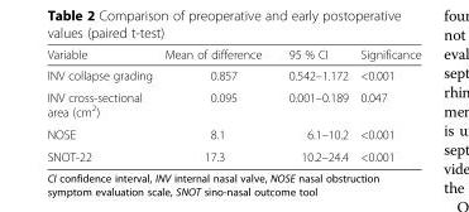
<table><thead><tr><td>Variable</td><td>Mean of difference</td><td>95 % CI</td><td>Significance</td></tr></thead><tbody><tr><td>INV collapse grading</td><td>0.857</td><td>0.542–1.172</td><td>&lt;0.001</td></tr><tr><td>INV cross-sectional area (cm<sup>2</sup>)</td><td>0.095</td><td>0.001–0.189</td><td>0.047</td></tr><tr><td>NOSE</td><td>8.1</td><td>6.1–10.2</td><td>&lt;0.001</td></tr><tr><td>SNOT-22</td><td>17.3</td><td>10.2–24.4</td><td>&lt;0.001</td></tr></tbody></table>